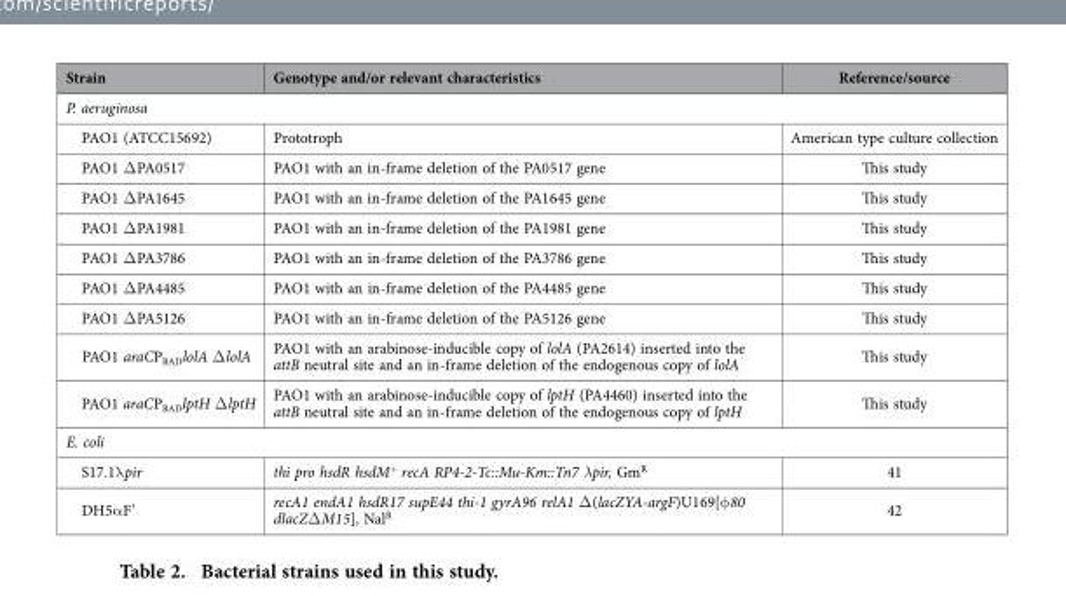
<table><thead><tr><td>Strain</td><td>Genotype and/or relevant characteristics</td><td>Reference/source</td></tr></thead><tbody><tr><td colspan="3">P. aeruginosa</td></tr><tr><td>PAO1 (ATCC15692)</td><td>Prototroph</td><td>American type culture collection</td></tr><tr><td>PAO1 Δ PA0517</td><td>PAO1 with an in-frame deletion of the PA0517 gene</td><td>This study</td></tr><tr><td>PAO1 Δ PA1645</td><td>PAO1 with an in-frame deletion of the PA1645 gene</td><td>This study</td></tr><tr><td>PAO1 Δ PA1981</td><td>PAO1 with an in-frame deletion of the PA1981 gene</td><td>This study</td></tr><tr><td>PAO1 Δ PA3786</td><td>PAO1 with an in-frame deletion of the PA3786 gene</td><td>This study</td></tr><tr><td>PAO1 Δ PA4485</td><td>PAO1 with an in-frame deletion of the PA4485 gene</td><td>This study</td></tr><tr><td>PAO1 Δ PA5126</td><td>PAO1 with an in-frame deletion of the PA5126 gene</td><td>This study</td></tr><tr><td>PAO1 araCP<sub>BAD</sub>lolA Δ lolA</td><td>PAO1 with an arabinose-inducible copy of lolA (PA2614) inserted into the attB neutral site and an in-frame deletion of the endogenous copy of lolA</td><td>This study</td></tr><tr><td>PAO1 araCP<sub>BAD</sub>lptH Δ lptH</td><td>PAO1 with an arabinose-inducible copy of lptH (PA4460) inserted into the attB neutral site and an in-frame deletion of the endogenous copy of lptH</td><td>This study</td></tr><tr><td colspan="3">E. coli</td></tr><tr><td>S17.1λ pir</td><td>thi pro hsdR hsdM<sup>+</sup> recA RP4-2-Tc::Mu-Km::Tn7 λpir, Gm<sup>R</sup></td><td>41</td></tr><tr><td>DH5α F’</td><td>recA1 endA1 hsdR17 supE44 thi-1 gyrA96 relA1 Δ (lacZYA-argF)U169[φ 80 dlacZΔ M15], Nal<sup>R</sup></td><td>42</td></tr></tbody></table>